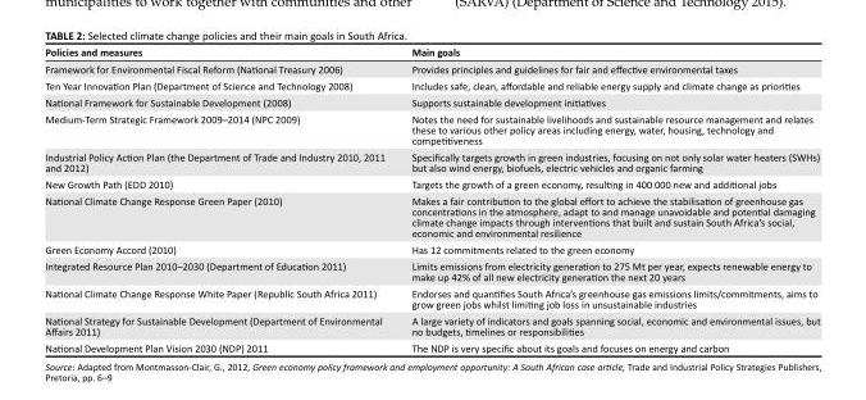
<table><thead><tr><td>Policies and measures</td><td>Main goals</td></tr></thead><tbody><tr><td>Framework for Environmental Fiscal Reform (National Treasury 2006)</td><td>Provides principles and guidelines for fair and effective environmental taxes</td></tr><tr><td>Ten Year Innovation Plan (Department of Science and Technology 2008)</td><td>Includes safe, clean, affordable and reliable energy supply and climate change as priorities</td></tr><tr><td>National Framework for Sustainable Development (2008)</td><td>Supports sustainable development initiatives</td></tr><tr><td>Medium-Term Strategic Framework 2009–2014 (NPC 2009)</td><td>Notes the need for sustainable livelihoods and sustainable resource management and relates these to various other policy areas including energy, water, housing, technology and competitiveness</td></tr><tr><td>Industrial Policy Action Plan (the Department of Trade and Industry 2010, 2011 and 2012)</td><td>Specifically targets growth in green industries, focusing on not only solar water heaters (SWHs) but also wind energy, biofuels, electric vehicles and organic farming</td></tr><tr><td>New Growth Path (EDD 2010)</td><td>Targets the growth of a green economy, resulting in 400 000 new and additional jobs</td></tr><tr><td>National Climate Change Response Green Paper (2010)</td><td>Makes a fair contribution to the global effort to achieve the stabilisation of greenhouse gas concentrations in the atmosphere, adapt to and manage unavoidable and potential damaging climate change impacts through interventions that built and sustain South Africa’s social, economic and environmental resilience</td></tr><tr><td>Green Economy Accord (2010)</td><td>Has 12 commitments related to the green economy</td></tr><tr><td>Integrated Resource Plan 2010–2030 (Department of Education 2011)</td><td>Limits emissions from electricity generation to 275 Mt per year, expects renewable energy to make up 42% of all new electricity generation the next 20 years</td></tr><tr><td>National Climate Change Response White Paper (Republic South Africa 2011)</td><td>Endorses and quantifies South Africa’s greenhouse gas emissions limits/commitments, aims to grow green jobs whilst limiting job loss in unsustainable industries</td></tr><tr><td>National Strategy for Sustainable Development (Department of Environmental Affairs 2011)</td><td>A large variety of indicators and goals spanning social, economic and environmental issues, but no budgets, timelines or responsibilities</td></tr><tr><td>National Development Plan Vision 2030 (NDP) 2011</td><td>The NDP is very specific about its goals and focuses on energy and carbon</td></tr></tbody></table>